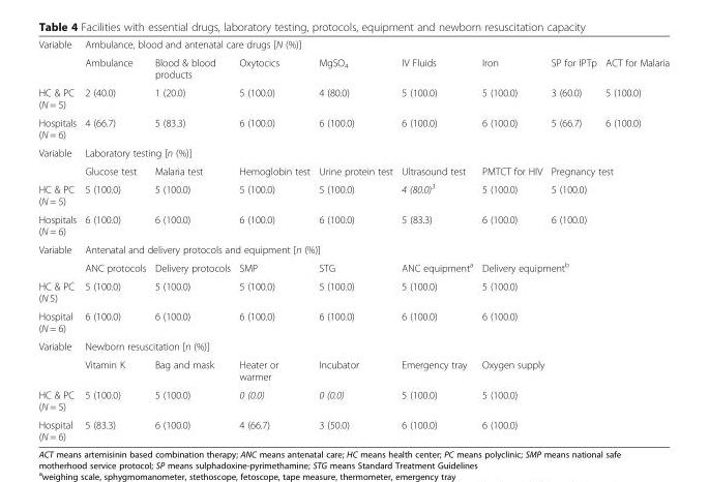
<table><tbody><tr><td rowspan="2">Variable</td><td colspan="8">Ambulance, blood and antenatal care drugs [N (%)]</td></tr><tr><td>Ambulance</td><td>Blood &amp; blood products</td><td>Oxytocics</td><td>MgSO<sub>4</sub></td><td>IV Fluids</td><td>Iron</td><td>SP for IPTp</td><td>ACT for Malaria</td></tr><tr><td>HC &amp; PC (N = 5)</td><td>2 (40.0)</td><td>1 (20.0)</td><td>5 (100.0)</td><td>4 (80.0)</td><td>5 (100.0)</td><td>5 (100.0)</td><td>3 (60.0)</td><td>5 (100.0)</td></tr><tr><td>Hospitals (N = 6)</td><td>4 (66.7)</td><td>5 (83.3)</td><td>6 (100.0)</td><td>6 (100.0)</td><td>6 (100.0)</td><td>6 (100.0)</td><td>5 (66.7)</td><td>6 (100.0)</td></tr><tr><td rowspan="2">Variable</td><td colspan="8">Laboratory testing [n (%)]</td></tr><tr><td>Glucose test</td><td>Malaria test</td><td>Hemoglobin test</td><td>Urine protein test</td><td>Ultrasound test</td><td>PMTCT for HIV</td><td colspan="2">Pregnancy test</td></tr><tr><td>HC &amp; PC (N = 5)</td><td>5 (100.0)</td><td>5 (100.0)</td><td>5 (100.0)</td><td>5 (100.0)</td><td>4 (80.0)<sup>3</sup></td><td>5 (100.0)</td><td colspan="2">5 (100.0)</td></tr><tr><td>Hospitals (N = 6)</td><td>6 (100.0)</td><td>6 (100.0)</td><td>6 (100.0)</td><td>6 (100.0)</td><td>5 (83.3)</td><td>6 (100.0)</td><td colspan="2">6 (100.0)</td></tr><tr><td rowspan="2">Variable</td><td colspan="8">Antenatal and delivery protocols and equipment [n (%)]</td></tr><tr><td>ANC protocols</td><td>Delivery protocols</td><td>SMP</td><td>STG</td><td>ANC equipment<sup>a</sup></td><td colspan="3">Delivery equipment<sup>b</sup></td></tr><tr><td>HC &amp; PC (N 5)</td><td>5 (100.0)</td><td>5 (100.0)</td><td>5 (100.0)</td><td>5 (100.0)</td><td>5 (100.0)</td><td colspan="3">5 (100.0)</td></tr><tr><td>Hospital (N = 6)</td><td>6 (100.0)</td><td>6 (100.0)</td><td>6 (100.0)</td><td>6 (100.0)</td><td>6 (100.0)</td><td colspan="3">6 (100.0)</td></tr><tr><td rowspan="2">Variable</td><td colspan="8">Newborn resuscitation [n (%)]</td></tr><tr><td>Vitamin K</td><td>Bag and mask</td><td>Heater or warmer</td><td>Incubator</td><td>Emergency tray</td><td colspan="3">Oxygen supply</td></tr><tr><td>HC &amp; PC (N = 5)</td><td>5 (100.0)</td><td>5 (100.0)</td><td>0 (0.0)</td><td>0 (0.0)</td><td>5 (100.0)</td><td colspan="3">5 (100.0)</td></tr><tr><td>Hospital (N = 6)</td><td>5 (83.3)</td><td>6 (100.0)</td><td>4 (66.7)</td><td>3 (50.0)</td><td>6 (100.0)</td><td colspan="3">6 (100.0)</td></tr></tbody></table>